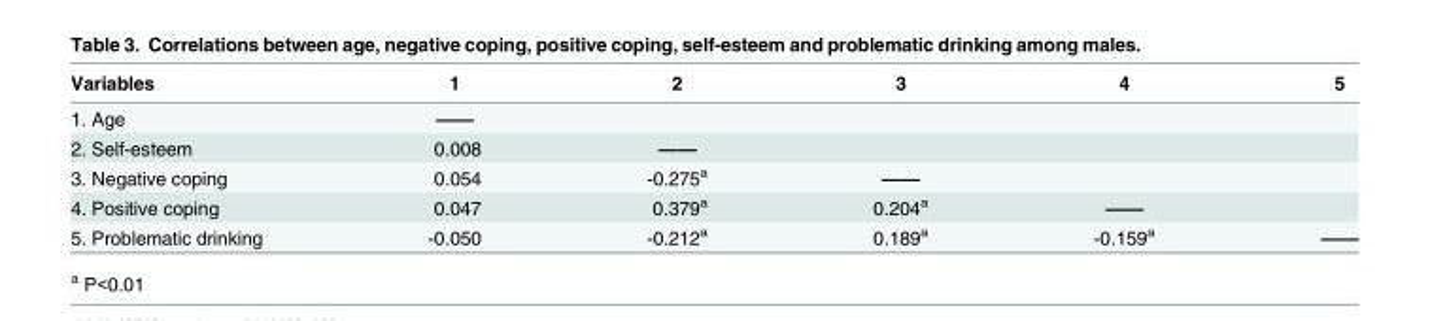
<table><thead><tr><td>Variables</td><td>1</td><td>2</td><td>3</td><td>4</td><td>5</td></tr></thead><tbody><tr><td>1. Age</td><td>——</td><td></td><td></td><td></td><td></td></tr><tr><td>2. Self-esteem</td><td>0.008</td><td>——</td><td></td><td></td><td></td></tr><tr><td>3. Negative coping</td><td>0.054</td><td>-0.275<sup>a</sup></td><td>——</td><td></td><td></td></tr><tr><td>4. Positive coping</td><td>0.047</td><td>0.379<sup>a</sup></td><td>0.204<sup>a</sup></td><td>——</td><td></td></tr><tr><td>5. Problematic drinking</td><td>-0.050</td><td>-0.212<sup>a</sup></td><td>0.189<sup>a</sup></td><td>-0.159<sup>a</sup></td><td>——</td></tr></tbody></table>